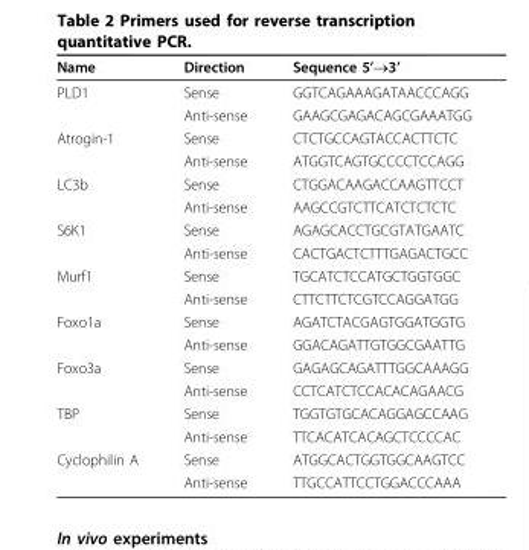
<table><thead><tr><td>Name</td><td>Direction</td><td>Sequence 5’→3’</td></tr></thead><tbody><tr><td rowspan="2">PLD1</td><td>Sense</td><td>GGTCAGAAAGATAACCCAGG</td></tr><tr><td>Anti-sense</td><td>GAAGCGAGACAGCGAAATGG</td></tr><tr><td rowspan="2">Atrogin-1</td><td>Sense</td><td>CTCTGCCAGTACCACTTCTC</td></tr><tr><td>Anti-sense</td><td>ATGGTCAGTGCCCCTCCAGG</td></tr><tr><td rowspan="2">LC3b</td><td>Sense</td><td>CTGGACAAGACCAAGTTCCT</td></tr><tr><td>Anti-sense</td><td>AAGCCGTCTTCATCTCTCTC</td></tr><tr><td rowspan="2">S6K1</td><td>Sense</td><td>AGAGCACCTGCGTATGAATC</td></tr><tr><td>Anti-sense</td><td>CACTGACTCTTTGAGACTGCC</td></tr><tr><td rowspan="2">Murf1</td><td>Sense</td><td>TGCATCTCCATGCTGGTGGC</td></tr><tr><td>Anti-sense</td><td>CTTCTTCTCGTCCAGGATGG</td></tr><tr><td rowspan="2">Foxo1a</td><td>Sense</td><td>AGATCTACGAGTGGATGGTG</td></tr><tr><td>Anti-sense</td><td>GGACAGATTGTGGCGAATTG</td></tr><tr><td rowspan="2">Foxo3a</td><td>Sense</td><td>GAGAGCAGATTTGGCAAAGG</td></tr><tr><td>Anti-sense</td><td>CCTCATCTCCACACAGAACG</td></tr><tr><td rowspan="2">TBP</td><td>Sense</td><td>TGGTGTGCACAGGAGCCAAG</td></tr><tr><td>Anti-sense</td><td>TTCACATCACAGCTCCCCAC</td></tr><tr><td rowspan="2">Cyclophilin A</td><td>Sense</td><td>ATGGCACTGGTGGCAAGTCC</td></tr><tr><td>Anti-sense</td><td>TTGCCATTCCTGGACCCAAA</td></tr></tbody></table>